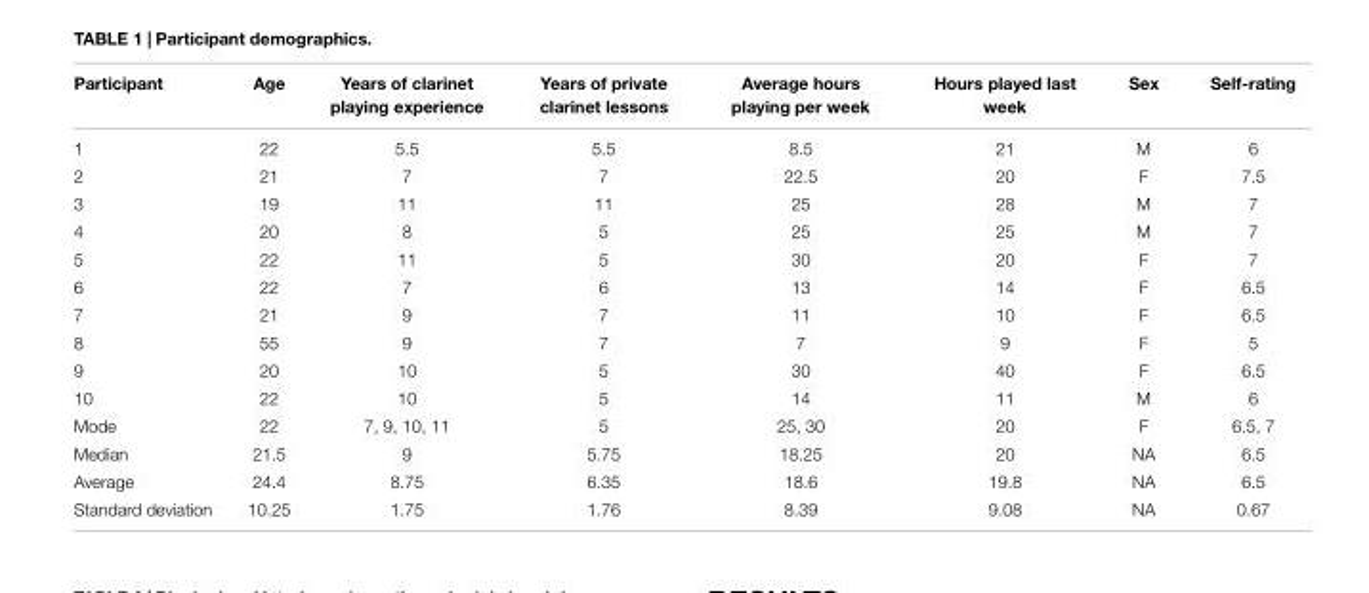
<table><thead><tr><td>Participant</td><td>Age</td><td>Years of clarinet playing experience</td><td>Years of private clarinet lessons</td><td>Average hours playing per week</td><td>Hours played last week</td><td>Sex</td><td>Self-rating</td></tr></thead><tbody><tr><td>1</td><td>22</td><td>5.5</td><td>5.5</td><td>8.5</td><td>21</td><td>M</td><td>6</td></tr><tr><td>2</td><td>21</td><td>7</td><td>7</td><td>22.5</td><td>20</td><td>F</td><td>7.5</td></tr><tr><td>3</td><td>19</td><td>11</td><td>11</td><td>25</td><td>28</td><td>M</td><td>7</td></tr><tr><td>4</td><td>20</td><td>8</td><td>5</td><td>25</td><td>25</td><td>M</td><td>7</td></tr><tr><td>5</td><td>22</td><td>11</td><td>5</td><td>30</td><td>20</td><td>F</td><td>7</td></tr><tr><td>6</td><td>22</td><td>7</td><td>6</td><td>13</td><td>14</td><td>F</td><td>6.5</td></tr><tr><td>7</td><td>21</td><td>9</td><td>7</td><td>11</td><td>10</td><td>F</td><td>6.5</td></tr><tr><td>8</td><td>55</td><td>9</td><td>7</td><td>7</td><td>9</td><td>F</td><td>5</td></tr><tr><td>9</td><td>20</td><td>10</td><td>5</td><td>30</td><td>40</td><td>F</td><td>6.5</td></tr><tr><td>10</td><td>22</td><td>10</td><td>5</td><td>14</td><td>11</td><td>M</td><td>6</td></tr><tr><td>Mode</td><td>22</td><td>7, 9, 10, 11</td><td>5</td><td>25, 30</td><td>20</td><td>F</td><td>6.5, 7</td></tr><tr><td>Median</td><td>21.5</td><td>9</td><td>5.75</td><td>18.25</td><td>20</td><td>NA</td><td>6.5</td></tr><tr><td>Average</td><td>24.4</td><td>8.75</td><td>6.35</td><td>18.6</td><td>19.8</td><td>NA</td><td>6.5</td></tr><tr><td>Standard deviation</td><td>10.25</td><td>1.75</td><td>1.76</td><td>8.39</td><td>9.08</td><td>NA</td><td>0.67</td></tr></tbody></table>